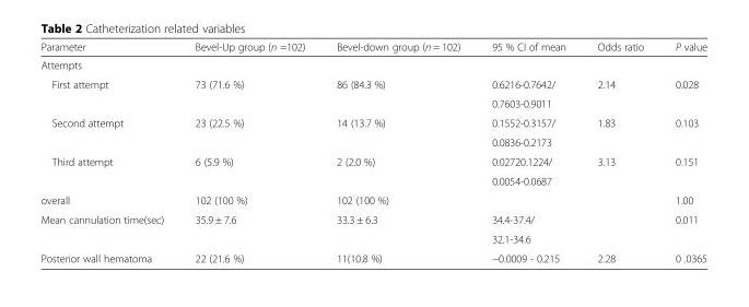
<table><thead><tr><td>Parameter</td><td>Bevel-Up group (n =102)</td><td>Bevel-down group (n = 102)</td><td>95 % CI of mean</td><td>Odds ratio</td><td>P value</td></tr></thead><tbody><tr><td colspan="6">Attempts</td></tr><tr><td rowspan="2">First attempt</td><td rowspan="2">73 (71.6 %)</td><td rowspan="2">86 (84.3 %)</td><td>0.6216-0.7642/</td><td rowspan="2">2.14</td><td rowspan="2">0.028</td></tr><tr><td>0.7603-0.9011</td></tr><tr><td rowspan="2">Second attempt</td><td rowspan="2">23 (22.5 %)</td><td rowspan="2">14 (13.7 %)</td><td>0.1552-0.3157/</td><td rowspan="2">1.83</td><td rowspan="2">0.103</td></tr><tr><td>0.0836-0.2173</td></tr><tr><td rowspan="2">Third attempt</td><td rowspan="2">6 (5.9 %)</td><td rowspan="2">2 (2.0 %)</td><td>0.02720.1224/</td><td rowspan="2">3.13</td><td rowspan="2">0.151</td></tr><tr><td>0.0054-0.0687</td></tr><tr><td>overall</td><td>102 (100 %)</td><td>102 (100 %)</td><td></td><td></td><td>1.00</td></tr><tr><td rowspan="2">Mean cannulation time(sec)</td><td rowspan="2">35.9 ± 7.6</td><td rowspan="2">33.3 ± 6.3</td><td>34.4-37.4/</td><td rowspan="2"></td><td rowspan="2">0.011</td></tr><tr><td>32.1-34.6</td></tr><tr><td>Posterior wall hematoma</td><td>22 (21.6 %)</td><td>11(10.8 %)</td><td>−0.0009 - 0.215</td><td>2.28</td><td>0 .0365</td></tr></tbody></table>